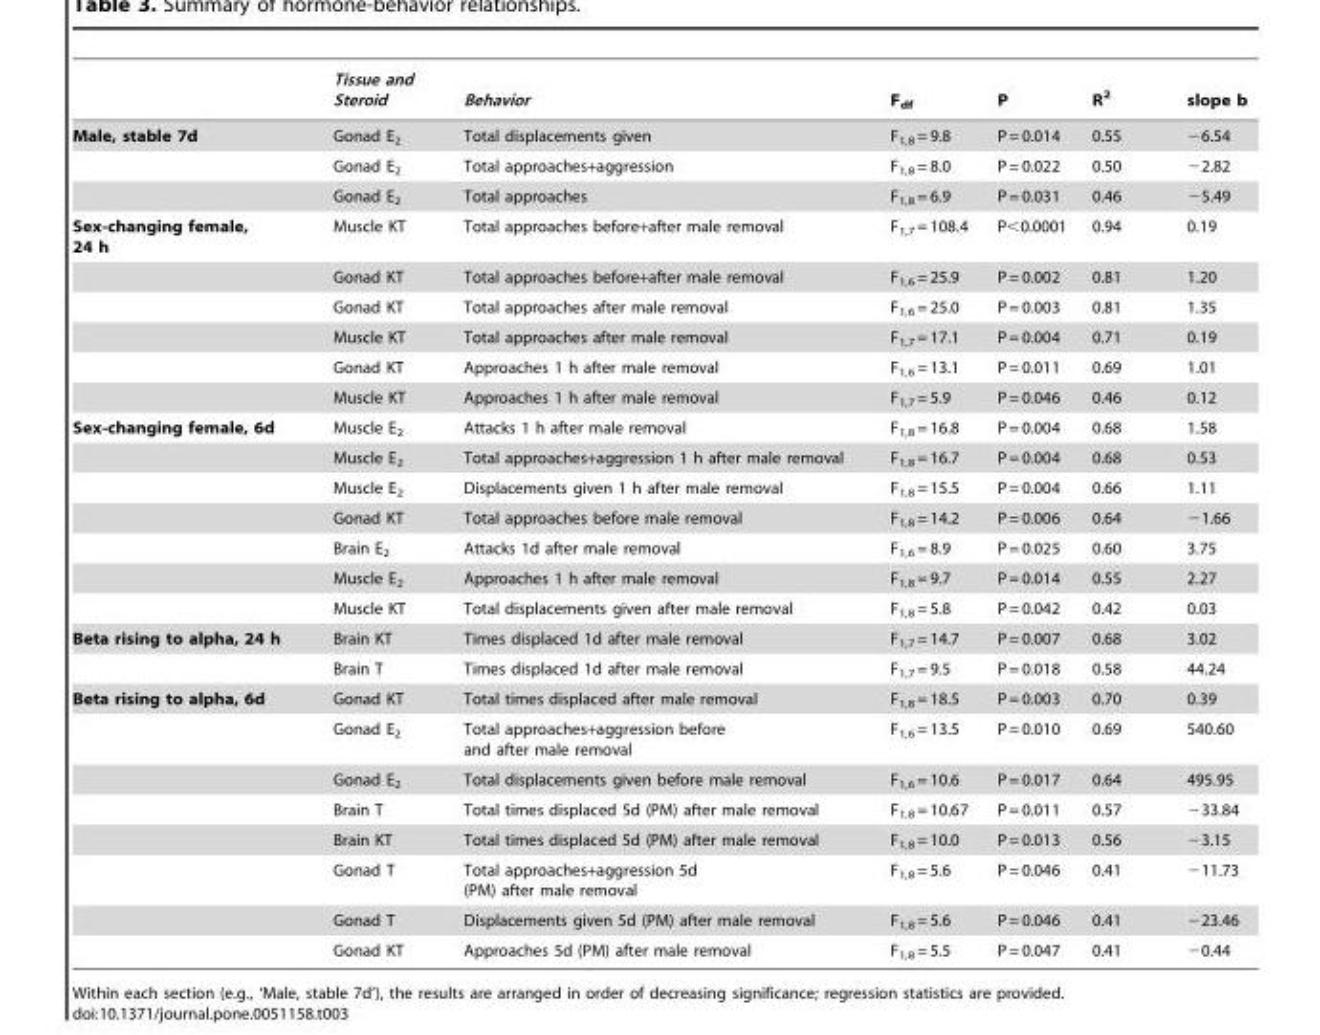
<table><thead><tr><td></td><td>Tissue and Steroid</td><td>Behavior</td><td>F<sub>df</sub></td><td>P</td><td>R<sup>2</sup></td><td>slope b</td></tr></thead><tbody><tr><td rowspan="3">Male, stable 7d</td><td>Gonad E<sub>2</sub></td><td>Total displacements given</td><td>F<sub>1,8</sub> = 9.8</td><td>P = 0.014</td><td>0.55</td><td>−6.54</td></tr><tr><td>Gonad E<sub>2</sub></td><td>Total approaches+aggression</td><td>F<sub>1,8</sub> = 8.0</td><td>P = 0.022</td><td>0.50</td><td>−2.82</td></tr><tr><td>Gonad E<sub>2</sub></td><td>Total approaches</td><td>F<sub>1,8</sub> = 6.9</td><td>P = 0.031</td><td>0.46</td><td>−5.49</td></tr><tr><td rowspan="6">Sex-changing female, 24 h</td><td>Muscle KT</td><td>Total approaches before+after male removal</td><td>F<sub>1,7</sub> = 108.4</td><td>P&lt;0.0001</td><td>0.94</td><td>0.19</td></tr><tr><td>Gonad KT</td><td>Total approaches before+after male removal</td><td>F<sub>1,6</sub> = 25.9</td><td>P = 0.002</td><td>0.81</td><td>1.20</td></tr><tr><td>Gonad KT</td><td>Total approaches after male removal</td><td>F<sub>1,6</sub> = 25.0</td><td>P = 0.003</td><td>0.81</td><td>1.35</td></tr><tr><td>Muscle KT</td><td>Total approaches after male removal</td><td>F<sub>1,7</sub> = 17.1</td><td>P = 0.004</td><td>0.71</td><td>0.19</td></tr><tr><td>Gonad KT</td><td>Approaches 1 h after male removal</td><td>F<sub>1,6</sub> = 13.1</td><td>P = 0.011</td><td>0.69</td><td>1.01</td></tr><tr><td>Muscle KT</td><td>Approaches 1 h after male removal</td><td>F<sub>1,7</sub> = 5.9</td><td>P = 0.046</td><td>0.46</td><td>0.12</td></tr><tr><td rowspan="7">Sex-changing female, 6d</td><td>Muscle E<sub>2</sub></td><td>Attacks 1 h after male removal</td><td>F<sub>1,8</sub> = 16.8</td><td>P = 0.004</td><td>0.68</td><td>1.58</td></tr><tr><td>Muscle E<sub>2</sub></td><td>Total approaches+aggression 1 h after male removal</td><td>F<sub>1,8</sub> = 16.7</td><td>P = 0.004</td><td>0.68</td><td>0.53</td></tr><tr><td>Muscle E<sub>2</sub></td><td>Displacements given 1 h after male removal</td><td>F<sub>1,8</sub> = 15.5</td><td>P = 0.004</td><td>0.66</td><td>1.11</td></tr><tr><td>Gonad KT</td><td>Total approaches before male removal</td><td>F<sub>1,8</sub> = 14.2</td><td>P = 0.006</td><td>0.64</td><td>−1.66</td></tr><tr><td>Brain E<sub>2</sub></td><td>Attacks 1d after male removal</td><td>F<sub>1,6</sub> = 8.9</td><td>P = 0.025</td><td>0.60</td><td>3.75</td></tr><tr><td>Muscle E<sub>2</sub></td><td>Approaches 1 h after male removal</td><td>F<sub>1,8</sub> = 9.7</td><td>P = 0.014</td><td>0.55</td><td>2.27</td></tr><tr><td>Muscle KT</td><td>Total displacements given after male removal</td><td>F<sub>1,8</sub> = 5.8</td><td>P = 0.042</td><td>0.42</td><td>0.03</td></tr><tr><td rowspan="2">Beta rising to alpha, 24 h</td><td>Brain KT</td><td>Times displaced 1d after male removal</td><td>F<sub>1,7</sub> = 14.7</td><td>P = 0.007</td><td>0.68</td><td>3.02</td></tr><tr><td>Brain T</td><td>Times displaced 1d after male removal</td><td>F<sub>1,7</sub> = 9.5</td><td>P = 0.018</td><td>0.58</td><td>44.24</td></tr><tr><td rowspan="8">Beta rising to alpha, 6d</td><td>Gonad KT</td><td>Total times displaced after male removal</td><td>F<sub>1,8</sub> = 18.5</td><td>P = 0.003</td><td>0.70</td><td>0.39</td></tr><tr><td>Gonad E<sub>2</sub></td><td>Total approaches+aggression before and after male removal</td><td>F<sub>1,6</sub> = 13.5</td><td>P = 0.010</td><td>0.69</td><td>540.60</td></tr><tr><td>Gonad E<sub>2</sub></td><td>Total displacements given before male removal</td><td>F<sub>1,6</sub> = 10.6</td><td>P = 0.017</td><td>0.64</td><td>495.95</td></tr><tr><td>Brain T</td><td>Total times displaced 5d (PM) after male removal</td><td>F<sub>1,8</sub> = 10.67</td><td>P = 0.011</td><td>0.57</td><td>−33.84</td></tr><tr><td>Brain KT</td><td>Total times displaced 5d (PM) after male removal</td><td>F<sub>1,8</sub> = 10.0</td><td>P = 0.013</td><td>0.56</td><td>−3.15</td></tr><tr><td>Gonad T</td><td>Total approaches+aggression 5d (PM) after male removal</td><td>F<sub>1,8</sub> = 5.6</td><td>P = 0.046</td><td>0.41</td><td>−11.73</td></tr><tr><td>Gonad T</td><td>Displacements given 5d (PM) after male removal</td><td>F<sub>1,8</sub> = 5.6</td><td>P = 0.046</td><td>0.41</td><td>−23.46</td></tr><tr><td>Gonad KT</td><td>Approaches 5d (PM) after male removal</td><td>F<sub>1,8</sub> = 5.5</td><td>P = 0.047</td><td>0.41</td><td>−0.44</td></tr></tbody></table>